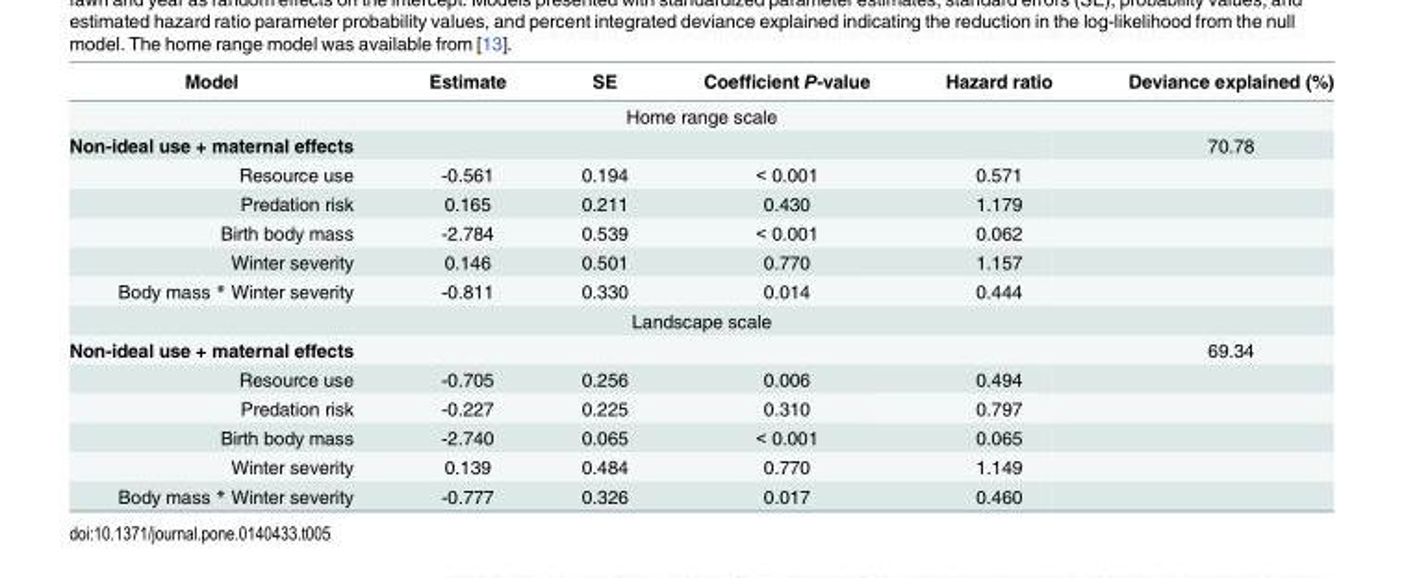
<table><thead><tr><td>Model</td><td>Estimate</td><td>SE</td><td>Coefficient P-value</td><td>Hazard ratio</td><td>Deviance explained (%)</td></tr></thead><tbody><tr><td colspan="6">Home range scale</td></tr><tr><td>Non-ideal use + maternal effects</td><td></td><td></td><td></td><td></td><td>70.78</td></tr><tr><td>Resource use</td><td>-0.561</td><td>0.194</td><td>&lt; 0.001</td><td>0.571</td><td></td></tr><tr><td>Predation risk</td><td>0.165</td><td>0.211</td><td>0.430</td><td>1.179</td><td></td></tr><tr><td>Birth body mass</td><td>-2.784</td><td>0.539</td><td>&lt; 0.001</td><td>0.062</td><td></td></tr><tr><td>Winter severity</td><td>0.146</td><td>0.501</td><td>0.770</td><td>1.157</td><td></td></tr><tr><td>Body mass * Winter severity</td><td>-0.811</td><td>0.330</td><td>0.014</td><td>0.444</td><td></td></tr><tr><td colspan="6">Landscape scale</td></tr><tr><td>Non-ideal use + maternal effects</td><td></td><td></td><td></td><td></td><td>69.34</td></tr><tr><td>Resource use</td><td>-0.705</td><td>0.256</td><td>0.006</td><td>0.494</td><td></td></tr><tr><td>Predation risk</td><td>-0.227</td><td>0.225</td><td>0.310</td><td>0.797</td><td></td></tr><tr><td>Birth body mass</td><td>-2.740</td><td>0.065</td><td>&lt; 0.001</td><td>0.065</td><td></td></tr><tr><td>Winter severity</td><td>0.139</td><td>0.484</td><td>0.770</td><td>1.149</td><td></td></tr><tr><td>Body mass * Winter severity</td><td>-0.777</td><td>0.326</td><td>0.017</td><td>0.460</td><td></td></tr></tbody></table>